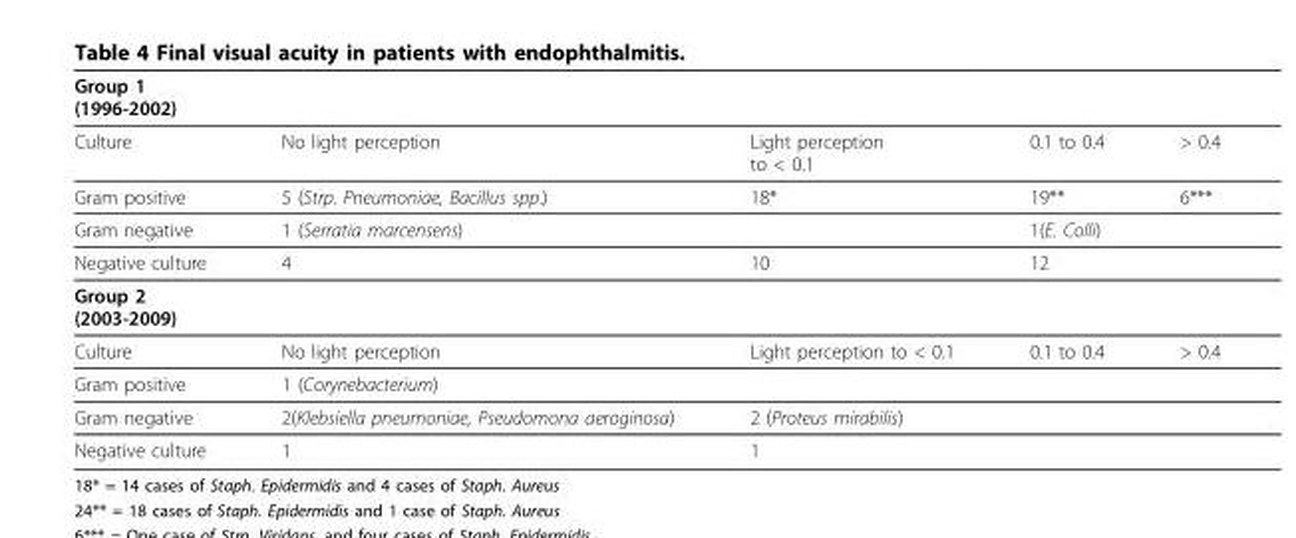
<table><thead><tr><td>Group 1 (1996-2002)</td><td></td><td></td><td></td><td></td></tr></thead><tbody><tr><td>Culture</td><td>No light perception</td><td>Light perception to &lt; 0.1</td><td>0.1 to 0.4</td><td>&gt; 0.4</td></tr><tr><td>Gram positive</td><td>5 (Strp. Pneumoniae, Bacillus spp.)</td><td>18*</td><td>19**</td><td>6***</td></tr><tr><td>Gram negative</td><td>1 (Serratia marcensens)</td><td></td><td>1(E. Colli)</td><td></td></tr><tr><td>Negative culture</td><td>4</td><td>10</td><td>12</td><td></td></tr><tr><td colspan="5">Group 2 (2003-2009)</td></tr><tr><td>Culture</td><td>No light perception</td><td>Light perception to &lt; 0.1</td><td>0.1 to 0.4</td><td>&gt; 0.4</td></tr><tr><td>Gram positive</td><td>1 (Corynebacterium)</td><td></td><td></td><td></td></tr><tr><td>Gram negative</td><td>2(Klebsiella pneumoniae, Pseudomona aeroginosa)</td><td>2 (Proteus mirabilis)</td><td></td><td></td></tr><tr><td>Negative culture</td><td>1</td><td>1</td><td></td><td></td></tr></tbody></table>